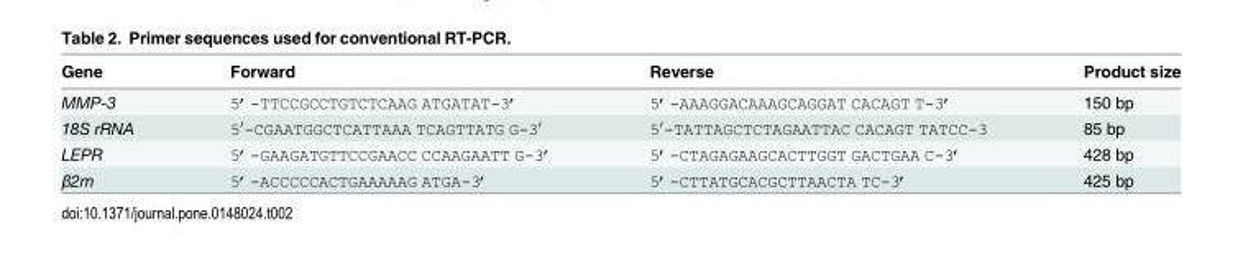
<table><thead><tr><td>Gene</td><td>Forward</td><td>Reverse</td><td>Product size</td></tr></thead><tbody><tr><td>MMP-3</td><td>5’-TTCCGCCTGTCTCAAG ATGATAT-3’</td><td>5’-AAAGGACAAAGCAGGAT CACAGT T-3’</td><td>150 bp</td></tr><tr><td>18S rRNA</td><td>5′-CGAATGGCTCATTAAA TCAGTTATG G-3′</td><td>5′-TATTAGCTCTAGAATTAC CACAGT TATCC-3</td><td>85 bp</td></tr><tr><td>LEPR</td><td>5’-GAAGATGTTCCGAACC CCAAGAATT G-3’</td><td>5’-CTAGAGAAGCACTTGGT GACTGAA C-3’</td><td>428 bp</td></tr><tr><td>β2m</td><td>5’-ACCCCCACTGAAAAAG ATGA-3’</td><td>5’-CTTATGCACGCTTAACTA TC-3’</td><td>425 bp</td></tr></tbody></table>